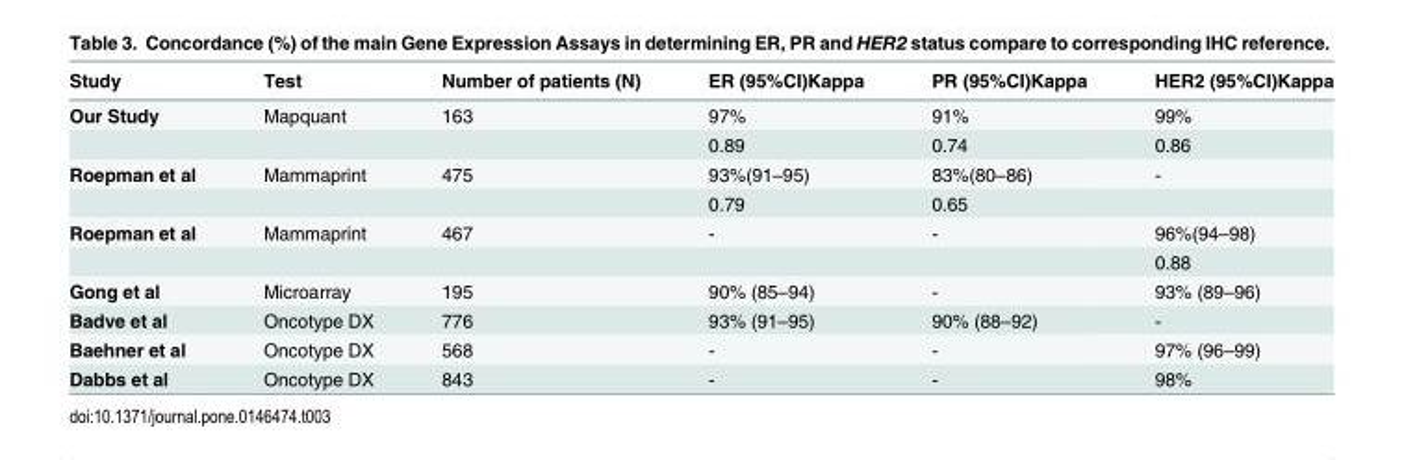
<table><thead><tr><td>Study</td><td>Test</td><td>Number of patients (N)</td><td>ER (95%CI)Kappa</td><td>PR (95%CI)Kappa</td><td>HER2 (95%CI)Kappa</td></tr></thead><tbody><tr><td rowspan="2">Our Study</td><td>Mapquant</td><td>163</td><td>97%</td><td>91%</td><td>99%</td></tr><tr><td></td><td></td><td>0.89</td><td>0.74</td><td>0.86</td></tr><tr><td rowspan="2">Roepman et al</td><td>Mammaprint</td><td>475</td><td>93%(91–95)</td><td>83%(80–86)</td><td>-</td></tr><tr><td></td><td></td><td>0.79</td><td>0.65</td><td></td></tr><tr><td rowspan="2">Roepman et al</td><td>Mammaprint</td><td>467</td><td>-</td><td>-</td><td>96%(94–98)</td></tr><tr><td></td><td></td><td></td><td></td><td>0.88</td></tr><tr><td>Gong et al</td><td>Microarray</td><td>195</td><td>90% (85–94)</td><td>-</td><td>93% (89–96)</td></tr><tr><td>Badve et al</td><td>Oncotype DX</td><td>776</td><td>93% (91–95)</td><td>90% (88–92)</td><td>-</td></tr><tr><td>Baehner et al</td><td>Oncotype DX</td><td>568</td><td>-</td><td>-</td><td>97% (96–99)</td></tr><tr><td>Dabbs et al</td><td>Oncotype DX</td><td>843</td><td>-</td><td>-</td><td>98%</td></tr></tbody></table>